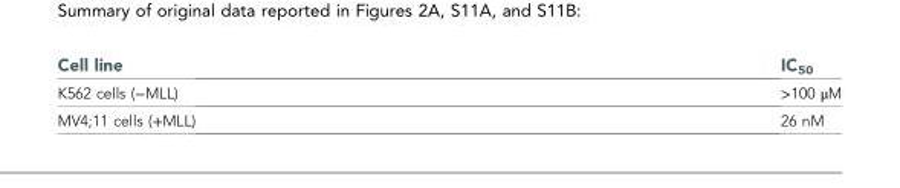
<table><thead><tr><td>Cell line</td><td>IC<sub>50</sub></td></tr></thead><tbody><tr><td>K562 cells (−MLL)</td><td>&gt;100 μM</td></tr><tr><td>MV4;11 cells (+MLL)</td><td>26 nM</td></tr></tbody></table>